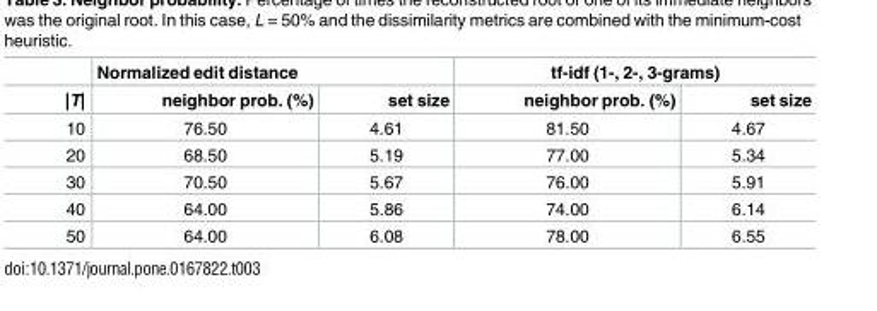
<table><thead><tr><td rowspan="2">|T|</td><td colspan="2">Normalized edit distance</td><td colspan="2">tf-idf (1-, 2-, 3-grams)</td></tr><tr><td>neighbor prob. (%)</td><td>set size</td><td>neighbor prob. (%)</td><td>set size</td></tr></thead><tbody><tr><td>10</td><td>76.50</td><td>4.61</td><td>81.50</td><td>4.67</td></tr><tr><td>20</td><td>68.50</td><td>5.19</td><td>77.00</td><td>5.34</td></tr><tr><td>30</td><td>70.50</td><td>5.67</td><td>76.00</td><td>5.91</td></tr><tr><td>40</td><td>64.00</td><td>5.86</td><td>74.00</td><td>6.14</td></tr><tr><td>50</td><td>64.00</td><td>6.08</td><td>78.00</td><td>6.55</td></tr></tbody></table>